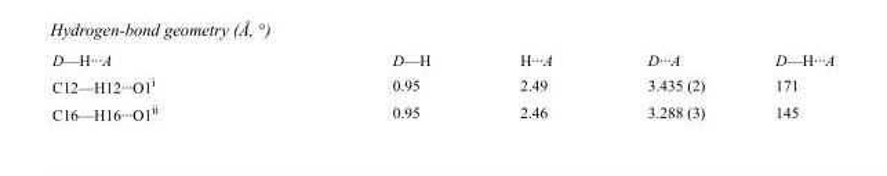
<table><tbody><tr><td>D—H···A</td><td>D—H</td><td>H···A</td><td>D···A</td><td>D—H···A</td></tr><tr><td>C12—H12···O1<sup>i</sup></td><td>0.95</td><td>2.49</td><td>3.435 (2)</td><td>171</td></tr><tr><td>C16—H16···O1<sup>ii</sup></td><td>0.95</td><td>2.46</td><td>3.288 (3)</td><td>145</td></tr></tbody></table>